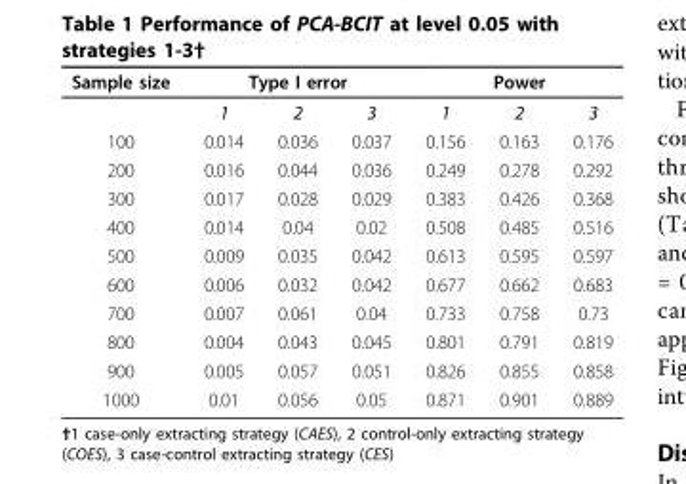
<table><thead><tr><td rowspan="2">Sample size</td><td colspan="3">Type I error</td><td colspan="3">Power</td></tr><tr><td>1</td><td>2</td><td>3</td><td>1</td><td>2</td><td>3</td></tr></thead><tbody><tr><td>100</td><td>0.014</td><td>0.036</td><td>0.037</td><td>0.156</td><td>0.163</td><td>0.176</td></tr><tr><td>200</td><td>0.016</td><td>0.044</td><td>0.036</td><td>0.249</td><td>0.278</td><td>0.292</td></tr><tr><td>300</td><td>0.017</td><td>0.028</td><td>0.029</td><td>0.383</td><td>0.426</td><td>0.368</td></tr><tr><td>400</td><td>0.014</td><td>0.04</td><td>0.02</td><td>0.508</td><td>0.485</td><td>0.516</td></tr><tr><td>500</td><td>0.009</td><td>0.035</td><td>0.042</td><td>0.613</td><td>0.595</td><td>0.597</td></tr><tr><td>600</td><td>0.006</td><td>0.032</td><td>0.042</td><td>0.677</td><td>0.662</td><td>0.683</td></tr><tr><td>700</td><td>0.007</td><td>0.061</td><td>0.04</td><td>0.733</td><td>0.758</td><td>0.73</td></tr><tr><td>800</td><td>0.004</td><td>0.043</td><td>0.045</td><td>0.801</td><td>0.791</td><td>0.819</td></tr><tr><td>900</td><td>0.005</td><td>0.057</td><td>0.051</td><td>0.826</td><td>0.855</td><td>0.858</td></tr><tr><td>1000</td><td>0.01</td><td>0.056</td><td>0.05</td><td>0.871</td><td>0.901</td><td>0.889</td></tr></tbody></table>